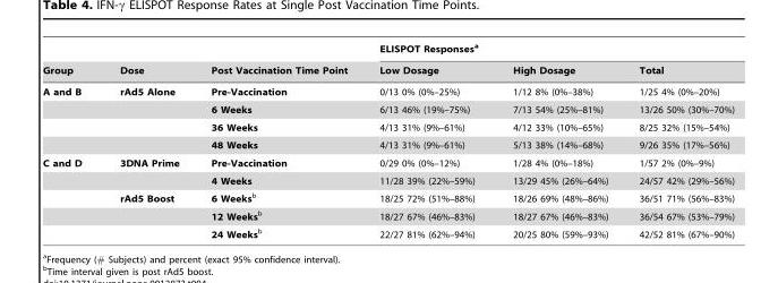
<table><thead><tr><td rowspan="2">Group</td><td rowspan="2">Dose</td><td rowspan="2">Post Vaccination Time Point</td><td colspan="3">ELISPOT Responses<sup>a</sup></td></tr><tr><td>Low Dosage</td><td>High Dosage</td><td>Total</td></tr></thead><tbody><tr><td rowspan="4">A and B</td><td>rAd5 Alone</td><td>Pre-Vaccination</td><td>0/13 0% (0%–25%)</td><td>1/12 8% (0%–38%)</td><td>1/25 4% (0%–20%)</td></tr><tr><td></td><td>6 Weeks</td><td>6/13 46% (19%–75%)</td><td>7/13 54% (25%–81%)</td><td>13/26 50% (30%–70%)</td></tr><tr><td></td><td>36 Weeks</td><td>4/13 31% (9%–61%)</td><td>4/12 33% (10%–65%)</td><td>8/25 32% (15%–54%)</td></tr><tr><td></td><td>48 Weeks</td><td>4/13 31% (9%–61%)</td><td>5/13 38% (14%–68%)</td><td>9/26 35% (17%–56%)</td></tr><tr><td rowspan="5">C and D</td><td>3DNA Prime</td><td>Pre-Vaccination</td><td>0/29 0% (0%–12%)</td><td>1/28 4% (0%–18%)</td><td>1/57 2% (0%–9%)</td></tr><tr><td></td><td>4 Weeks</td><td>11/28 39% (22%–59%)</td><td>13/29 45% (26%–64%)</td><td>24/57 42% (29%–56%)</td></tr><tr><td>rAd5 Boost</td><td>6 Weeksb</td><td>18/25 72% (51%–88%)</td><td>18/26 69% (48%–86%)</td><td>36/51 71% (56%–83%)</td></tr><tr><td></td><td>12 Weeksb</td><td>18/27 67% (46%–83%)</td><td>18/27 67% (46%–83%)</td><td>36/54 67% (53%–79%)</td></tr><tr><td></td><td>24 Weeksb</td><td>22/27 81% (62%–94%)</td><td>20/25 80% (59%–93%)</td><td>42/52 81% (67%–90%)</td></tr></tbody></table>